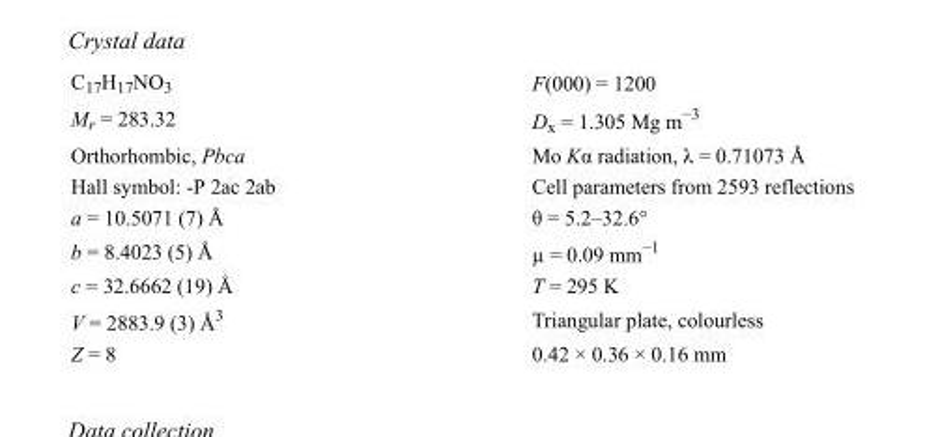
<table><tbody><tr><td>C<sub>17</sub>H<sub>17</sub>NO<sub>3</sub></td><td>F(000) = 1200</td></tr><tr><td>M<sub>r</sub> = 283.32</td><td>D<sub>x</sub> = 1.305 Mg m<sup>−3</sup></td></tr><tr><td>Orthorhombic, Pbca</td><td>Mo Kα radiation, λ = 0.71073 Å</td></tr><tr><td>Hall symbol: -P 2ac 2ab</td><td>Cell parameters from 2593 reflections</td></tr><tr><td>a = 10.5071 (7) Å</td><td>θ = 5.2–32.6°</td></tr><tr><td>b = 8.4023 (5) Å</td><td>µ = 0.09 mm<sup>−1</sup></td></tr><tr><td>c = 32.6662 (19) Å</td><td>T = 295 K</td></tr><tr><td>V = 2883.9 (3) Å<sup>3</sup></td><td>Triangular plate, colourless</td></tr><tr><td>Z = 8</td><td>0.42 × 0.36 × 0.16 mm</td></tr></tbody></table>